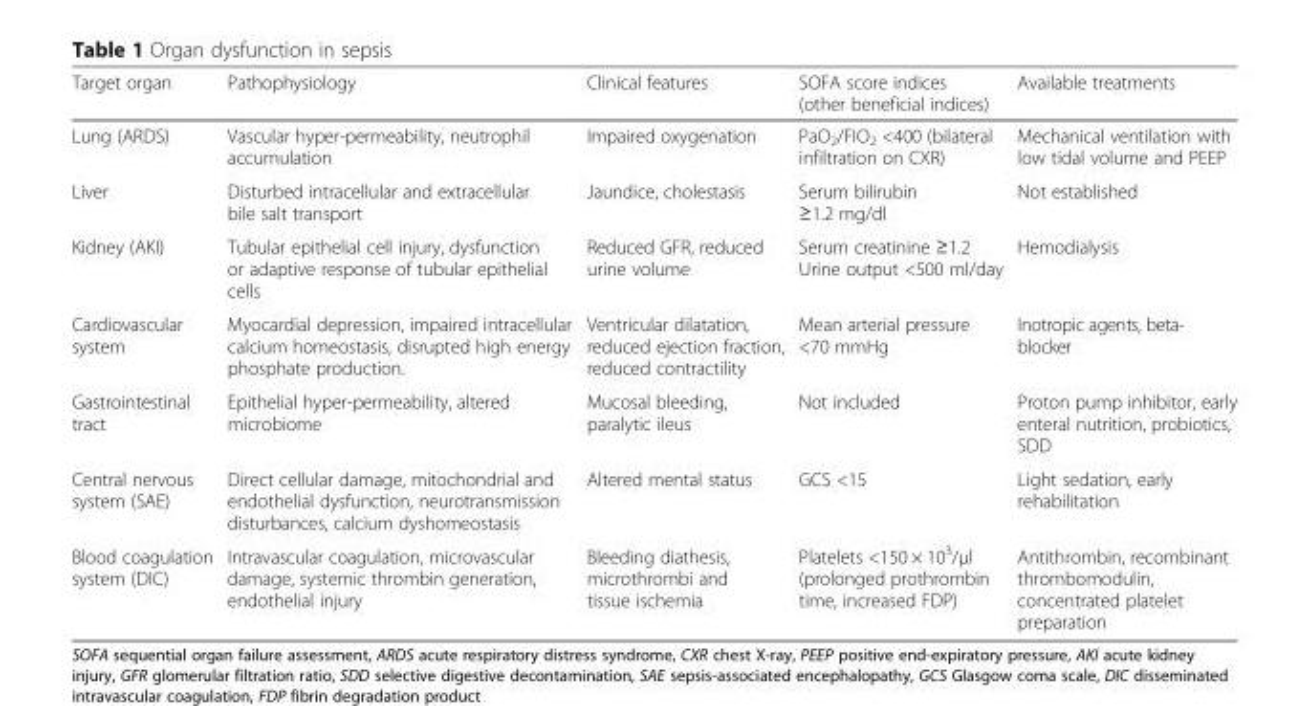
<table><thead><tr><td>Target organ</td><td>Pathophysiology</td><td>Clinical features</td><td>SOFA score indices (other beneficial indices)</td><td>Available treatments</td></tr></thead><tbody><tr><td>Lung (ARDS)</td><td>Vascular hyper-permeability, neutrophil accumulation</td><td>Impaired oxygenation</td><td>PaO<sub>2</sub>/FIO<sub>2</sub> &lt;400 (bilateral infiltration on CXR)</td><td>Mechanical ventilation with low tidal volume and PEEP</td></tr><tr><td>Liver</td><td>Disturbed intracellular and extracellular bile salt transport</td><td>Jaundice, cholestasis</td><td>Serum bilirubin ≥1.2 mg/dl</td><td>Not established</td></tr><tr><td>Kidney (AKI)</td><td>Tubular epithelial cell injury, dysfunction or adaptive response of tubular epithelial cells</td><td>Reduced GFR, reduced urine volume</td><td>Serum creatinine ≥1.2 Urine output &lt;500 ml/day</td><td>Hemodialysis</td></tr><tr><td>Cardiovascular system</td><td>Myocardial depression, impaired intracellular calcium homeostasis, disrupted high energy phosphate production.</td><td>Ventricular dilatation, reduced ejection fraction, reduced contractility</td><td>Mean arterial pressure &lt;70 mmHg</td><td>Inotropic agents, beta- blocker</td></tr><tr><td>Gastrointestinal tract</td><td>Epithelial hyper-permeability, altered microbiome</td><td>Mucosal bleeding, paralytic ileus</td><td>Not included</td><td>Proton pump inhibitor, early enteral nutrition, probiotics, SDD</td></tr><tr><td>Central nervous system (SAE)</td><td>Direct cellular damage, mitochondrial and endothelial dysfunction, neurotransmission disturbances, calcium dyshomeostasis</td><td>Altered mental status</td><td>GCS &lt;15</td><td>Light sedation, early rehabilitation</td></tr><tr><td>Blood coagulation system (DIC)</td><td>Intravascular coagulation, microvascular damage, systemic thrombin generation, endothelial injury</td><td>Bleeding diathesis, microthrombi and tissue ischemia</td><td>Platelets &lt;150 × 10<sup>3</sup>/μl (prolonged prothrombin time, increased FDP)</td><td>Antithrombin, recombinant thrombomodulin, concentrated platelet preparation</td></tr></tbody></table>